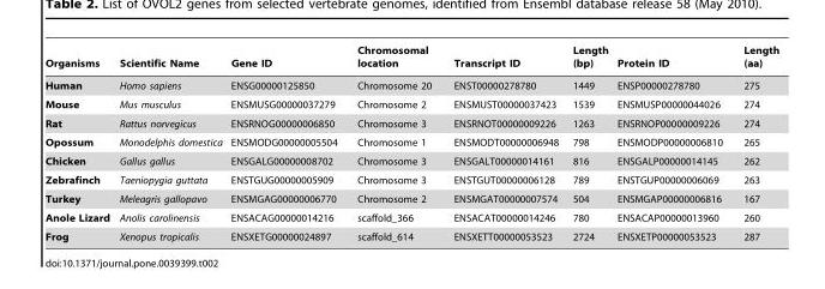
<table><thead><tr><td>Organisms</td><td>Scientific Name</td><td>Gene ID</td><td>Chromosomal location</td><td>Transcript ID</td><td>Length (bp)</td><td>Protein ID</td><td>Length (aa)</td></tr></thead><tbody><tr><td>Human</td><td>Homo sapiens</td><td>ENSG00000125850</td><td>Chromosome 20</td><td>ENST00000278780</td><td>1449</td><td>ENSP00000278780</td><td>275</td></tr><tr><td>Mouse</td><td>Mus musculus</td><td>ENSMUSG00000037279</td><td>Chromosome 2</td><td>ENSMUST00000037423</td><td>1539</td><td>ENSMUSP00000044026</td><td>274</td></tr><tr><td>Rat</td><td>Rattus norvegicus</td><td>ENSRNOG00000006850</td><td>Chromosome 3</td><td>ENSRNOT00000009226</td><td>1263</td><td>ENSRNOP00000009226</td><td>274</td></tr><tr><td>Opossum</td><td>Monodelphis domestica</td><td>ENSMODG00000005504</td><td>Chromosome 1</td><td>ENSMODT00000006948</td><td>798</td><td>ENSMODP00000006810</td><td>265</td></tr><tr><td>Chicken</td><td>Gallus gallus</td><td>ENSGALG00000008702</td><td>Chromosome 3</td><td>ENSGALT00000014161</td><td>816</td><td>ENSGALP00000014145</td><td>262</td></tr><tr><td>Zebrafinch</td><td>Taeniopygia guttata</td><td>ENSTGUG00000005909</td><td>Chromosome 3</td><td>ENSTGUT00000006128</td><td>789</td><td>ENSTGUP00000006069</td><td>263</td></tr><tr><td>Turkey</td><td>Meleagris gallopavo</td><td>ENSMGAG00000006770</td><td>Chromosome 2</td><td>ENSMGAT00000007574</td><td>504</td><td>ENSMGAP00000006816</td><td>167</td></tr><tr><td>Anole Lizard</td><td>Anolis carolinensis</td><td>ENSACAG00000014216</td><td>scaffold_366</td><td>ENSACAT00000014246</td><td>780</td><td>ENSACAP00000013960</td><td>260</td></tr><tr><td>Frog</td><td>Xenopus tropicalis</td><td>ENSXETG00000024897</td><td>scaffold_614</td><td>ENSXETT00000053523</td><td>2724</td><td>ENSXETP00000053523</td><td>287</td></tr></tbody></table>